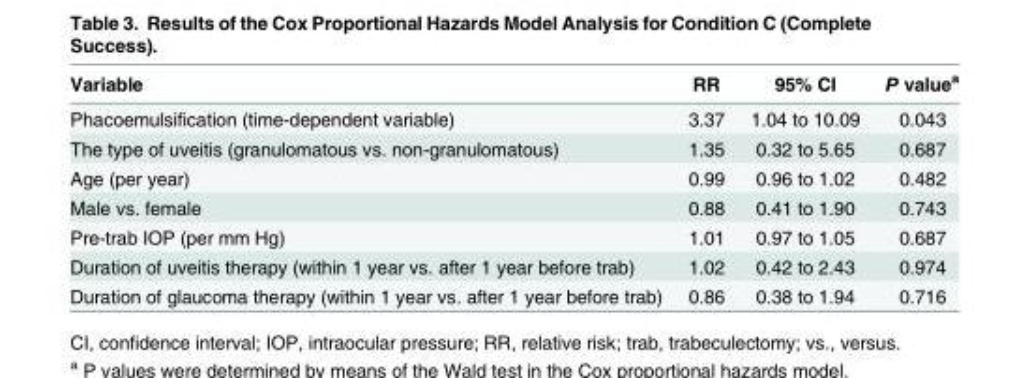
<table><thead><tr><td>Variable</td><td>RR</td><td>95% CI</td><td>P value<sup>a</sup></td></tr></thead><tbody><tr><td>Phacoemulsification (time-dependent variable)</td><td>3.37</td><td>1.04 to 10.09</td><td>0.043</td></tr><tr><td>The type of uveitis (granulomatous vs. non-granulomatous)</td><td>1.35</td><td>0.32 to 5.65</td><td>0.687</td></tr><tr><td>Age (per year)</td><td>0.99</td><td>0.96 to 1.02</td><td>0.482</td></tr><tr><td>Male vs. female</td><td>0.88</td><td>0.41 to 1.90</td><td>0.743</td></tr><tr><td>Pre-trab IOP (per mm Hg)</td><td>1.01</td><td>0.97 to 1.05</td><td>0.687</td></tr><tr><td>Duration of uveitis therapy (within 1 year vs. after 1 year before trab)</td><td>1.02</td><td>0.42 to 2.43</td><td>0.974</td></tr><tr><td>Duration of glaucoma therapy (within 1 year vs. after 1 year before trab)</td><td>0.86</td><td>0.38 to 1.94</td><td>0.716</td></tr></tbody></table>